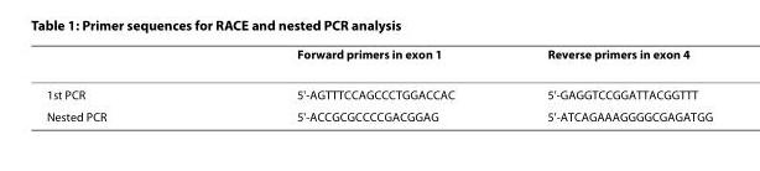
<table><thead><tr><td></td><td>Forward primers in exon 1</td><td>Reverse primers in exon 4</td></tr></thead><tbody><tr><td>1st PCR</td><td>5&#x27;-AGTTTCCAGCCCTGGACCAC</td><td>5&#x27;-GAGGTCCGGATTACGGTTT</td></tr><tr><td>Nested PCR</td><td>5&#x27;-ACCGCGCCCCGACGGAG</td><td>5&#x27;-ATCAGAAAGGGGCGAGATGG</td></tr></tbody></table>